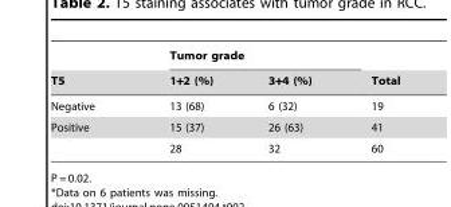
<table><thead><tr><td rowspan="2">T5</td><td colspan="2">Tumor grade</td><td rowspan="2">Total</td></tr><tr><td>1+2 (%)</td><td>3+4 (%)</td></tr></thead><tbody><tr><td>Negative</td><td>13 (68)</td><td>6 (32)</td><td>19</td></tr><tr><td rowspan="2">Positive</td><td>15 (37)</td><td>26 (63)</td><td>41</td></tr><tr><td>28</td><td>32</td><td>60</td></tr></tbody></table>